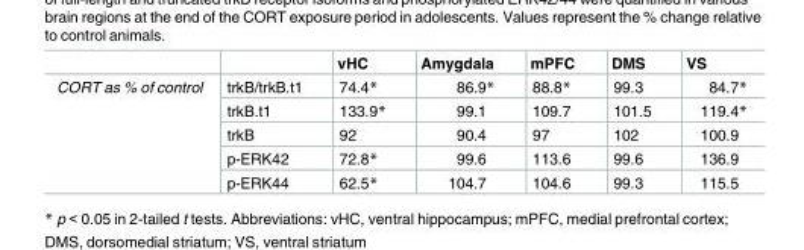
<table><thead><tr><td></td><td></td><td>vHC</td><td>Amygdala</td><td>mPFC</td><td>DMS</td><td>VS</td></tr></thead><tbody><tr><td rowspan="5">CORT as % of control</td><td>trkB/trkB.t1</td><td>74.4*</td><td>86.9*</td><td>88.8*</td><td>99.3</td><td>84.7*</td></tr><tr><td>trkB.t1</td><td>133.9*</td><td>99.1</td><td>109.7</td><td>101.5</td><td>119.4*</td></tr><tr><td>trkB</td><td>92</td><td>90.4</td><td>97</td><td>102</td><td>100.9</td></tr><tr><td>p-ERK42</td><td>72.8*</td><td>99.6</td><td>113.6</td><td>99.6</td><td>136.9</td></tr><tr><td>p-ERK44</td><td>62.5*</td><td>104.7</td><td>104.6</td><td>99.3</td><td>115.5</td></tr></tbody></table>